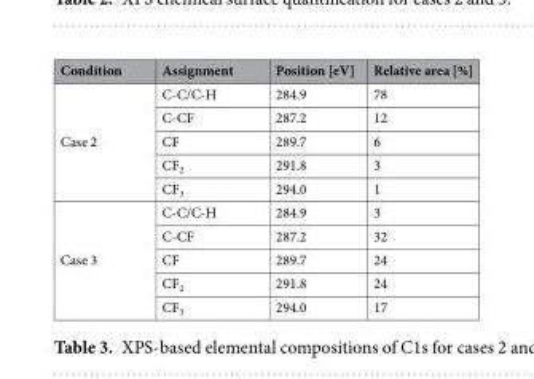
<table><thead><tr><td>Condition</td><td>Assignment</td><td>Position [eV]</td><td>Relative area [%]</td></tr></thead><tbody><tr><td rowspan="5">Case 2</td><td>C-C/C-H</td><td>284.9</td><td>78</td></tr><tr><td>C-CF</td><td>287.2</td><td>12</td></tr><tr><td>CF</td><td>289.7</td><td>6</td></tr><tr><td>CF<sub>2</sub></td><td>291.8</td><td>3</td></tr><tr><td>CF<sub>3</sub></td><td>294.0</td><td>1</td></tr><tr><td rowspan="5">Case 3</td><td>C-C/C-H</td><td>284.9</td><td>3</td></tr><tr><td>C-CF</td><td>287.2</td><td>32</td></tr><tr><td>CF</td><td>289.7</td><td>24</td></tr><tr><td>CF<sub>2</sub></td><td>291.8</td><td>24</td></tr><tr><td>CF<sub>3</sub></td><td>294.0</td><td>17</td></tr></tbody></table>